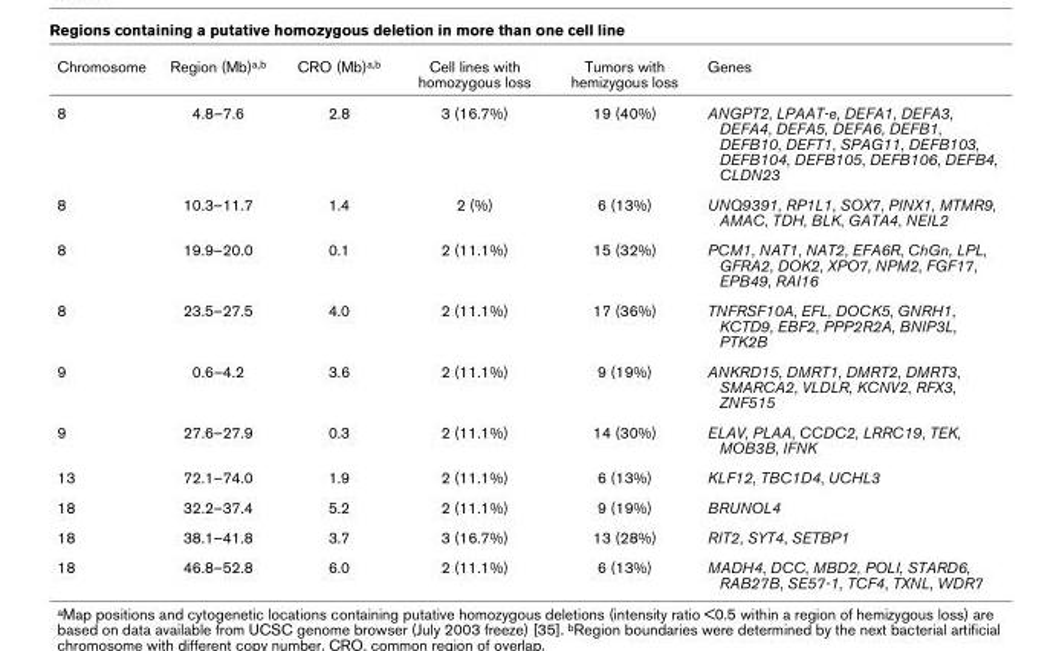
<table><thead><tr><td>Chromosome</td><td>Region (Mb)a,b</td><td>CRO (Mb)a,b</td><td>Cell lines with homozygous loss</td><td>Tumors with hemizygous loss</td><td>Genes</td></tr></thead><tbody><tr><td>8</td><td>4.8–7.6</td><td>2.8</td><td>3 (16.7%)</td><td>19 (40%)</td><td>ANGPT2, LPAAT-e, DEFA1, DEFA3, DEFA4, DEFA5, DEFA6, DEFB1, DEFB10, DEFT1, SPAG11, DEFB103, DEFB104, DEFB105, DEFB106, DEFB4, CLDN23</td></tr><tr><td>8</td><td>10.3–11.7</td><td>1.4</td><td>2 (%)</td><td>6 (13%)</td><td>UNQ9391, RP1L1, SOX7, PINX1, MTMR9, AMAC, TDH, BLK, GATA4, NEIL2</td></tr><tr><td>8</td><td>19.9–20.0</td><td>0.1</td><td>2 (11.1%)</td><td>15 (32%)</td><td>PCM1, NAT1, NAT2, EFA6R, ChGn, LPL, GFRA2, DOK2, XPO7, NPM2, FGF17, EPB49, RAI16</td></tr><tr><td>8</td><td>23.5–27.5</td><td>4.0</td><td>2 (11.1%)</td><td>17 (36%)</td><td>TNFRSF10A, EFL, DOCK5, GNRH1, KCTD9, EBF2, PPP2R2A, BNIP3L, PTK2B</td></tr><tr><td>9</td><td>0.6–4.2</td><td>3.6</td><td>2 (11.1%)</td><td>9 (19%)</td><td>ANKRD15, DMRT1, DMRT2, DMRT3, SMARCA2, VLDLR, KCNV2, RFX3, ZNF515</td></tr><tr><td>9</td><td>27.6–27.9</td><td>0.3</td><td>2 (11.1%)</td><td>14 (30%)</td><td>ELAV, PLAA, CCDC2, LRRC19, TEK, MOB3B, IFNK</td></tr><tr><td>13</td><td>72.1–74.0</td><td>1.9</td><td>2 (11.1%)</td><td>6 (13%)</td><td>KLF12, TBC1D4, UCHL3</td></tr><tr><td>18</td><td>32.2–37.4</td><td>5.2</td><td>2 (11.1%)</td><td>9 (19%)</td><td>BRUNOL4</td></tr><tr><td>18</td><td>38.1–41.8</td><td>3.7</td><td>3 (16.7%)</td><td>13 (28%)</td><td>RIT2, SYT4, SETBP1</td></tr><tr><td>18</td><td>46.8–52.8</td><td>6.0</td><td>2 (11.1%)</td><td>6 (13%)</td><td>MADH4, DCC, MBD2, POLI, STARD6, RAB27B, SE57-1, TCF4, TXNL, WDR7</td></tr></tbody></table>